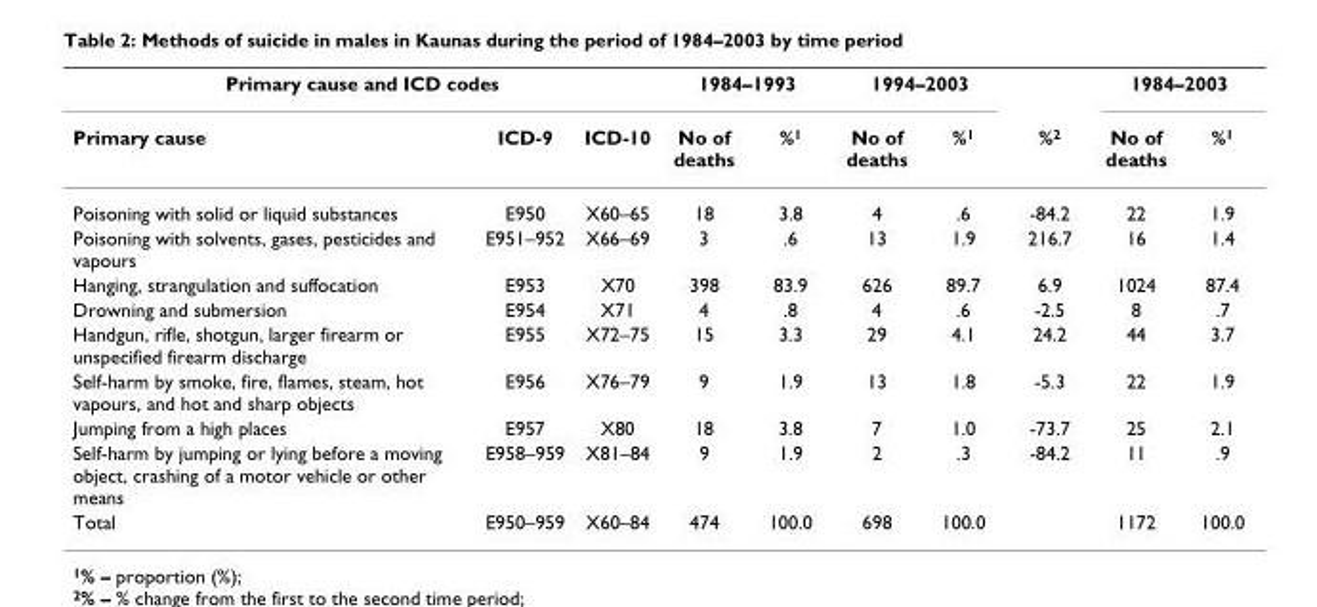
<table><thead><tr><td colspan="3">Primary cause and ICD codes</td><td colspan="2">1984–1993</td><td colspan="2">1994–2003</td><td rowspan="2">%2</td><td colspan="2">1984–2003</td></tr><tr><td>Primary cause</td><td>ICD-9</td><td>ICD-10</td><td>No of deaths</td><td>%1</td><td>No of deaths</td><td>%1</td><td>No of deaths</td><td>%1</td></tr></thead><tbody><tr><td>Poisoning with solid or liquid substances</td><td>E950</td><td>X60–65</td><td>18</td><td>3.8</td><td>4</td><td>.6</td><td>-84.2</td><td>22</td><td>1.9</td></tr><tr><td>Poisoning with solvents, gases, pesticides and vapours</td><td>E951–952</td><td>X66–69</td><td>3</td><td>.6</td><td>13</td><td>1.9</td><td>216.7</td><td>16</td><td>1.4</td></tr><tr><td>Hanging, strangulation and suffocation</td><td>E953</td><td>X70</td><td>398</td><td>83.9</td><td>626</td><td>89.7</td><td>6.9</td><td>1024</td><td>87.4</td></tr><tr><td>Drowning and submersion</td><td>E954</td><td>X71</td><td>4</td><td>.8</td><td>4</td><td>.6</td><td>-2.5</td><td>8</td><td>.7</td></tr><tr><td>Handgun, rifle, shotgun, larger firearm or unspecified firearm discharge</td><td>E955</td><td>X72–75</td><td>15</td><td>3.3</td><td>29</td><td>4.1</td><td>24.2</td><td>44</td><td>3.7</td></tr><tr><td>Self-harm by smoke, fire, flames, steam, hot vapours, and hot and sharp objects</td><td>E956</td><td>X76–79</td><td>9</td><td>1.9</td><td>13</td><td>1.8</td><td>-5.3</td><td>22</td><td>1.9</td></tr><tr><td>Jumping from a high places</td><td>E957</td><td>X80</td><td>18</td><td>3.8</td><td>7</td><td>1.0</td><td>-73.7</td><td>25</td><td>2.1</td></tr><tr><td>Self-harm by jumping or lying before a moving object, crashing of a motor vehicle or other means</td><td>E958–959</td><td>X81–84</td><td>9</td><td>1.9</td><td>2</td><td>.3</td><td>-84.2</td><td>11</td><td>.9</td></tr><tr><td>Total</td><td>E950–959</td><td>X60–84</td><td>474</td><td>100.0</td><td>698</td><td>100.0</td><td></td><td>1172</td><td>100.0</td></tr></tbody></table>